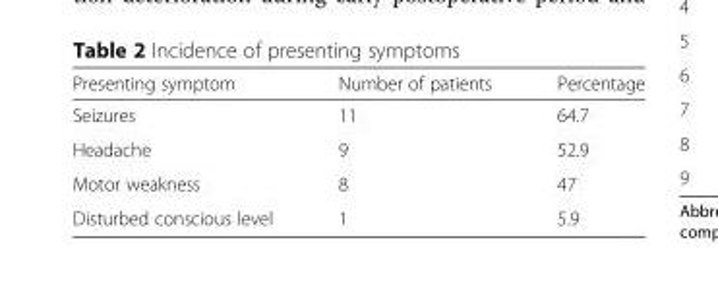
<table><thead><tr><td>Presenting symptom</td><td>Number of patients</td><td>Percentage</td></tr></thead><tbody><tr><td>Seizures</td><td>11</td><td>64.7</td></tr><tr><td>Headache</td><td>9</td><td>52.9</td></tr><tr><td>Motor weakness</td><td>8</td><td>47</td></tr><tr><td>Disturbed conscious level</td><td>1</td><td>5.9</td></tr></tbody></table>